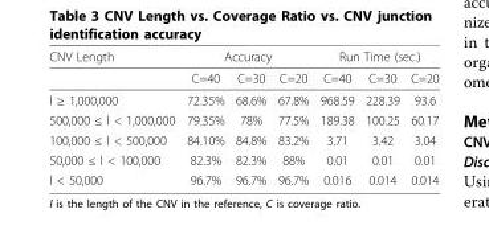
<table><thead><tr><td rowspan="2">CNV Length</td><td colspan="3">Accuracy</td><td colspan="3">Run Time (sec.)</td></tr><tr><td>C=40</td><td>C=30</td><td>C=20</td><td>C=40</td><td>C=30</td><td>C=20</td></tr></thead><tbody><tr><td>l ≥ 1,000,000</td><td>72.35%</td><td>68.6%</td><td>67.8%</td><td>968.59</td><td>228.39</td><td>93.6</td></tr><tr><td>500,000 ≤ l &lt; 1,000,000</td><td>79.35%</td><td>78%</td><td>77.5%</td><td>189.38</td><td>100.25</td><td>60.17</td></tr><tr><td>100,000 ≤ l &lt; 500,000</td><td>84.10%</td><td>84.8%</td><td>83.2%</td><td>3.71</td><td>3.42</td><td>3.04</td></tr><tr><td>50,000 ≤ l &lt; 100,000</td><td>82.3%</td><td>82.3%</td><td>88%</td><td>0.01</td><td>0.01</td><td>0.01</td></tr><tr><td>l &lt; 50,000</td><td>96.7%</td><td>96.7%</td><td>96.7%</td><td>0.016</td><td>0.014</td><td>0.014</td></tr></tbody></table>